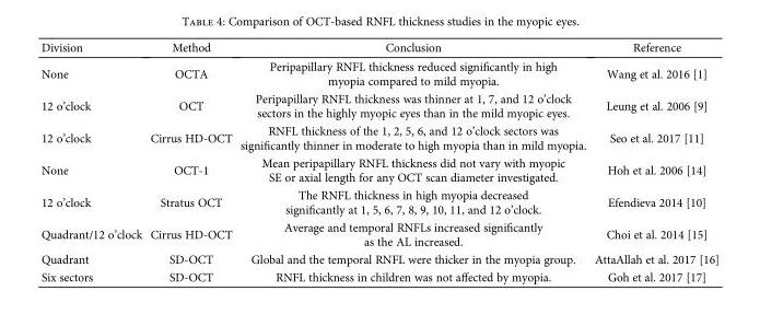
<table><thead><tr><td>Division</td><td>Method</td><td>Conclusion</td><td>Reference</td></tr></thead><tbody><tr><td>None</td><td>OCTA</td><td>Peripapillary RNFL thickness reduced significantly in high myopia compared to mild myopia.</td><td>Wang et al. 2016 [1]</td></tr><tr><td>12 o’clock</td><td>OCT</td><td>Peripapillary RNFL thickness was thinner at 1, 7, and 12 o’clock sectors in the highly myopic eyes than in the mild myopic eyes.</td><td>Leung et al. 2006 [9]</td></tr><tr><td>12 o’clock</td><td>Cirrus HD-OCT</td><td>RNFL thickness of the 1, 2, 5, 6, and 12 o’clock sectors was significantly thinner in moderate to high myopia than in mild myopia.</td><td>Seo et al. 2017 [11]</td></tr><tr><td>None</td><td>OCT-1</td><td>Mean peripapillary RNFL thickness did not vary with myopic SE or axial length for any OCT scan diameter investigated.</td><td>Hoh et al. 2006 [14]</td></tr><tr><td>12 o’clock</td><td>Stratus OCT</td><td>The RNFL thickness in high myopia decreased significantly at 1, 5, 6, 7, 8, 9, 10, 11, and 12 o’clock.</td><td>Efendieva 2014 [10]</td></tr><tr><td>Quadrant/12 o’clock</td><td>Cirrus HD-OCT</td><td>Average and temporal RNFLs increased significantly as the AL increased.</td><td>Choi et al. 2014 [15]</td></tr><tr><td>Quadrant</td><td>SD-OCT</td><td>Global and the temporal RNFL were thicker in the myopia group.</td><td>AttaAllah et al. 2017 [16]</td></tr><tr><td>Six sectors</td><td>SD-OCT</td><td>RNFL thickness in children was not affected by myopia.</td><td>Goh et al. 2017 [17]</td></tr></tbody></table>